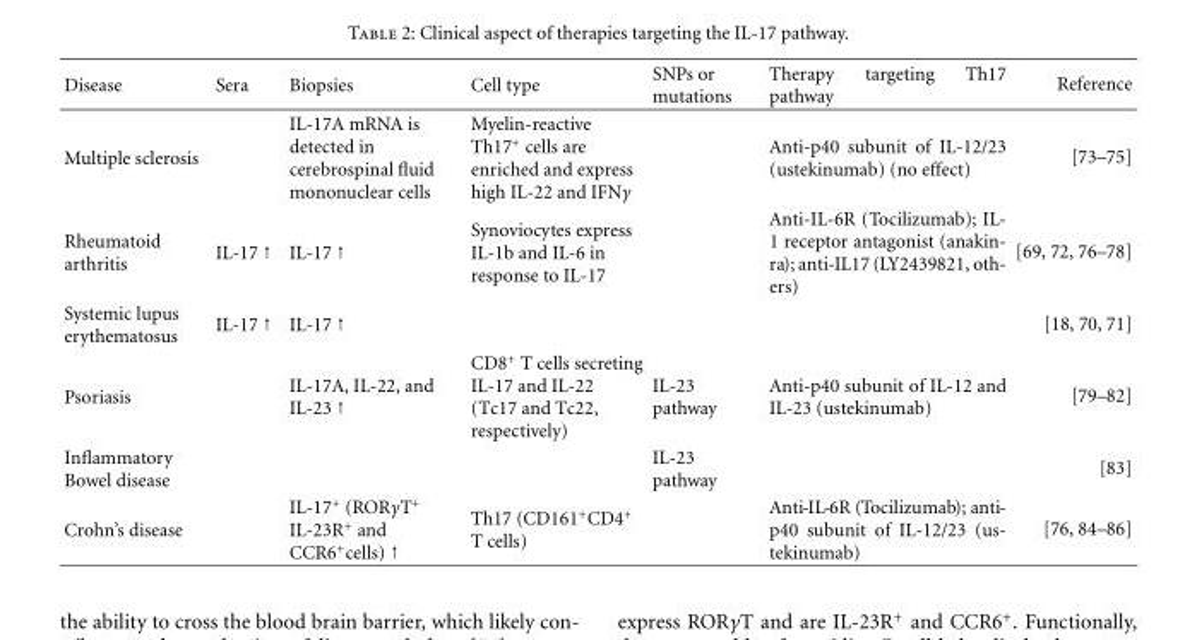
<table><thead><tr><td>Disease</td><td>Sera</td><td>Biopsies</td><td>Cell type</td><td>SNPs or mutations</td><td>Therapy targeting Th17 pathway</td><td>Reference</td></tr></thead><tbody><tr><td>Multiple sclerosis</td><td></td><td>IL-17A mRNA is detected in cerebrospinal fluid mononuclear cells</td><td>Myelin-reactive Th17<sup>+</sup> cells are enriched and express high IL-22 and IFNγ</td><td></td><td>Anti-p40 subunit of IL-12/23 (ustekinumab) (no effect)</td><td>[73–75]</td></tr><tr><td>Rheumatoid arthritis</td><td>IL-17 ↑</td><td>IL-17 ↑</td><td>Synoviocytes express IL-1b and IL-6 in response to IL-17</td><td></td><td>Anti-IL-6R (Tocilizumab); IL- 1 receptor antagonist (anakin- ra); anti-IL17 (LY2439821, oth- ers)</td><td>[69, 72, 76–78]</td></tr><tr><td>Systemic lupus erythematosus</td><td>IL-17 ↑</td><td>IL-17 ↑</td><td></td><td></td><td></td><td>[18, 70, 71]</td></tr><tr><td>Psoriasis</td><td></td><td>IL-17A, IL-22, and IL-23 ↑</td><td>CD8<sup>+</sup> T cells secreting IL-17 and IL-22 (Tc17 and Tc22, respectively)</td><td>IL-23 pathway</td><td>Anti-p40 subunit of IL-12 and IL-23 (ustekinumab)</td><td>[79–82]</td></tr><tr><td>Inflammatory Bowel disease</td><td></td><td></td><td></td><td>IL-23 pathway</td><td></td><td>[83]</td></tr><tr><td>Crohn’s disease</td><td></td><td>IL-17<sup>+</sup> (RORγT<sup>+</sup> IL-23R<sup>+</sup> and CCR6<sup>+</sup>cells) ↑</td><td>Th17 (CD161<sup>+</sup>CD4<sup>+</sup> T cells)</td><td></td><td>Anti-IL-6R (Tocilizumab); anti- p40 subunit of IL-12/23 (us- tekinumab)</td><td>[76, 84–86]</td></tr></tbody></table>